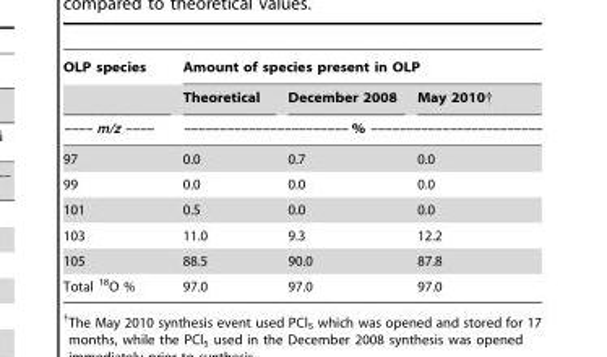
<table><thead><tr><td rowspan="3">OLP species –––– m/z ––––</td><td colspan="3">Amount of species present in OLP</td></tr><tr><td>Theoretical</td><td>December 2008</td><td>May 2010†</td></tr><tr><td colspan="3">––––––––––––––––––––––– % ––––––––––––––––––––––––</td></tr></thead><tbody><tr><td>97</td><td>0.0</td><td>0.7</td><td>0.0</td></tr><tr><td>99</td><td>0.0</td><td>0.0</td><td>0.0</td></tr><tr><td>101</td><td>0.5</td><td>0.0</td><td>0.0</td></tr><tr><td>103</td><td>11.0</td><td>9.3</td><td>12.2</td></tr><tr><td>105</td><td>88.5</td><td>90.0</td><td>87.8</td></tr><tr><td>Total <sup>18</sup>O %</td><td>97.0</td><td>97.0</td><td>97.0</td></tr></tbody></table>